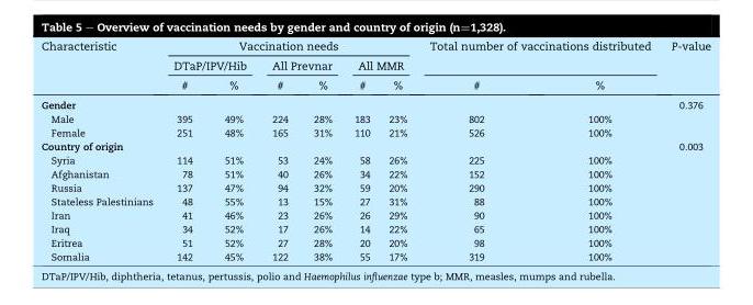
<table><thead><tr><td rowspan="3">Characteristic</td><td colspan="6">Vaccination needs</td><td rowspan="2" colspan="2">Total number of vaccinations distributed</td><td rowspan="3">P-value</td></tr><tr><td colspan="2">DTaP/IPV/Hib</td><td colspan="2">All Prevnar</td><td colspan="2">All MMR</td></tr><tr><td>#</td><td>%</td><td>#</td><td>%</td><td>#</td><td>%</td><td>#</td><td>%</td></tr></thead><tbody><tr><td>Gender</td><td></td><td></td><td></td><td></td><td></td><td></td><td></td><td></td><td>0.376</td></tr><tr><td>Male</td><td>395</td><td>49%</td><td>224</td><td>28%</td><td>183</td><td>23%</td><td>802</td><td>100%</td><td></td></tr><tr><td>Female</td><td>251</td><td>48%</td><td>165</td><td>31%</td><td>110</td><td>21%</td><td>526</td><td>100%</td><td></td></tr><tr><td>Country of origin</td><td></td><td></td><td></td><td></td><td></td><td></td><td></td><td></td><td>0.003</td></tr><tr><td>Syria</td><td>114</td><td>51%</td><td>53</td><td>24%</td><td>58</td><td>26%</td><td>225</td><td>100%</td><td></td></tr><tr><td>Afghanistan</td><td>78</td><td>51%</td><td>40</td><td>26%</td><td>34</td><td>22%</td><td>152</td><td>100%</td><td></td></tr><tr><td>Russia</td><td>137</td><td>47%</td><td>94</td><td>32%</td><td>59</td><td>20%</td><td>290</td><td>100%</td><td></td></tr><tr><td>Stateless Palestinians</td><td>48</td><td>55%</td><td>13</td><td>15%</td><td>27</td><td>31%</td><td>88</td><td>100%</td><td></td></tr><tr><td>Iran</td><td>41</td><td>46%</td><td>23</td><td>26%</td><td>26</td><td>29%</td><td>90</td><td>100%</td><td></td></tr><tr><td>Iraq</td><td>34</td><td>52%</td><td>17</td><td>26%</td><td>14</td><td>22%</td><td>65</td><td>100%</td><td></td></tr><tr><td>Eritrea</td><td>51</td><td>52%</td><td>27</td><td>28%</td><td>20</td><td>20%</td><td>98</td><td>100%</td><td></td></tr><tr><td>Somalia</td><td>142</td><td>45%</td><td>122</td><td>38%</td><td>55</td><td>17%</td><td>319</td><td>100%</td><td></td></tr></tbody></table>